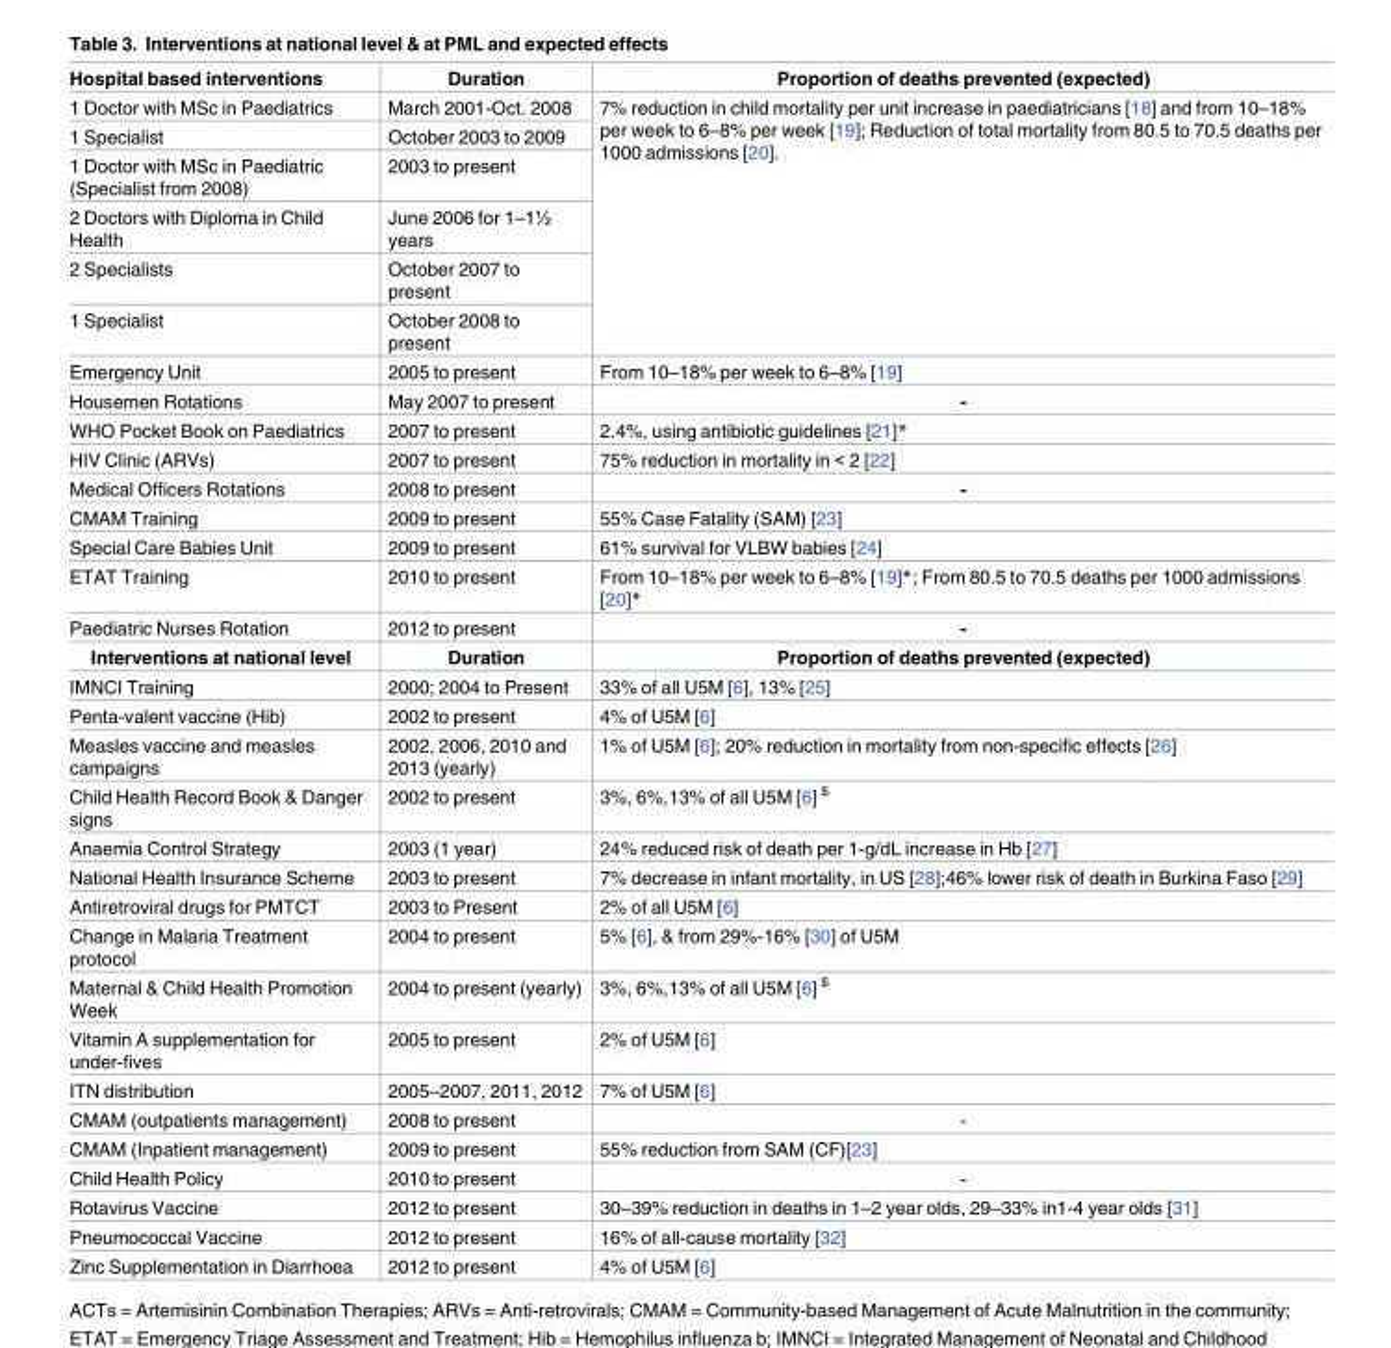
<table><tbody><tr><td>Hospital based interventions</td><td>Duration</td><td>Proportion of deaths prevented (expected)</td></tr><tr><td>1 Doctor with MSc in Paediatrics</td><td>March 2001-Oct. 2008</td><td rowspan="6">7% reduction in child mortality per unit increase in paediatricians [18] and from 10–18% per week to 6–8% per week [19]; Reduction of total mortality from 80.5 to 70.5 deaths per 1000 admissions [20].</td></tr><tr><td>1 Specialist</td><td>October 2003 to 2009</td></tr><tr><td>1 Doctor with MSc in Paediatric (Specialist from 2008)</td><td>2003 to present</td></tr><tr><td>2 Doctors with Diploma in Child Health</td><td>June 2006 for 1–1½ years</td></tr><tr><td>2 Specialists</td><td>October 2007 to present</td></tr><tr><td>1 Specialist</td><td>October 2008 to present</td></tr><tr><td>Emergency Unit</td><td>2005 to present</td><td>From 10–18% per week to 6–8% [19]</td></tr><tr><td>Housemen Rotations</td><td>May 2007 to present</td><td>-</td></tr><tr><td>WHO Pocket Book on Paediatrics</td><td>2007 to present</td><td>2.4%, using antibiotic guidelines [21]*</td></tr><tr><td>HIV Clinic (ARVs)</td><td>2007 to present</td><td>75% reduction in mortality in &lt; 2 [22]</td></tr><tr><td>Medical Officers Rotations</td><td>2008 to present</td><td>-</td></tr><tr><td>CMAM Training</td><td>2009 to present</td><td>55% Case Fatality (SAM) [23]</td></tr><tr><td>Special Care Babies Unit</td><td>2009 to present</td><td>61% survival for VLBW babies [24]</td></tr><tr><td>ETAT Training</td><td>2010 to present</td><td>From 10–18% per week to 6–8% [19]*; From 80.5 to 70.5 deaths per 1000 admissions [20]*</td></tr><tr><td>Paediatric Nurses Rotation</td><td>2012 to present</td><td>-</td></tr><tr><td>Interventions at national level</td><td>Duration</td><td>Proportion of deaths prevented (expected)</td></tr><tr><td>IMNCI Training</td><td>2000; 2004 to Present</td><td>33% of all U5M [6], 13% [25]</td></tr><tr><td>Penta-valent vaccine (Hib)</td><td>2002 to present</td><td>4% of U5M [6]</td></tr><tr><td>Measles vaccine and measles campaigns</td><td>2002, 2006, 2010 and 2013 (yearly)</td><td>1% of U5M [6]; 20% reduction in mortality from non-specific effects [26]</td></tr><tr><td>Child Health Record Book &amp; Danger signs</td><td>2002 to present</td><td>3%, 6%,13% of all U5M [6] <sup>$</sup></td></tr><tr><td>Anaemia Control Strategy</td><td>2003 (1 year)</td><td>24% reduced risk of death per 1-g/dL increase in Hb [27]</td></tr><tr><td>National Health Insurance Scheme</td><td>2003 to present</td><td>7% decrease in infant mortality, in US [28];46% lower risk of death in Burkina Faso [29]</td></tr><tr><td>Antiretroviral drugs for PMTCT</td><td>2003 to Present</td><td>2% of all U5M [6]</td></tr><tr><td>Change in Malaria Treatment protocol</td><td>2004 to present</td><td>5% [6], &amp; from 29%-16% [30] of U5M</td></tr><tr><td>Maternal &amp; Child Health Promotion Week</td><td>2004 to present (yearly)</td><td>3%, 6%,13% of all U5M [6] <sup>$</sup></td></tr><tr><td>Vitamin A supplementation for under-fives</td><td>2005 to present</td><td>2% of U5M [6]</td></tr><tr><td>ITN distribution</td><td>2005–2007, 2011, 2012</td><td>7% of U5M [6]</td></tr><tr><td>CMAM (outpatients management)</td><td>2008 to present</td><td>-</td></tr><tr><td>CMAM (Inpatient management)</td><td>2009 to present</td><td>55% reduction from SAM (CF)[23]</td></tr><tr><td>Child Health Policy</td><td>2010 to present</td><td>-</td></tr><tr><td>Rotavirus Vaccine</td><td>2012 to present</td><td>30–39% reduction in deaths in 1–2 year olds, 29–33% in1-4 year olds [31]</td></tr><tr><td>Pneumococcal Vaccine</td><td>2012 to present</td><td>16% of all-cause mortality [32]</td></tr><tr><td>Zinc Supplementation in Diarrhoea</td><td>2012 to present</td><td>4% of U5M [6]</td></tr></tbody></table>